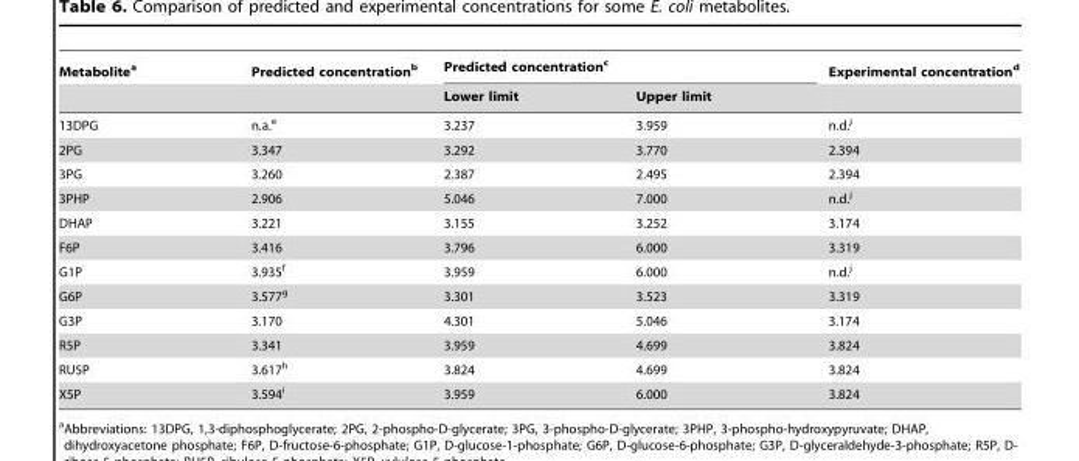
<table><thead><tr><td rowspan="2">Metabolite<sup>a</sup></td><td rowspan="2">Predicted concentration<sup>b</sup></td><td colspan="2">Predicted concentration<sup>c</sup></td><td rowspan="2">Experimental concentration<sup>d</sup></td></tr><tr><td>Lower limit</td><td>Upper limit</td></tr></thead><tbody><tr><td>13DPG</td><td>n.a.<sup>e</sup></td><td>3.237</td><td>3.959</td><td>n.d.<sup>j</sup></td></tr><tr><td>2PG</td><td>3.347</td><td>3.292</td><td>3.770</td><td>2.394</td></tr><tr><td>3PG</td><td>3.260</td><td>2.387</td><td>2.495</td><td>2.394</td></tr><tr><td>3PHP</td><td>2.906</td><td>5.046</td><td>7.000</td><td>n.d.<sup>j</sup></td></tr><tr><td>DHAP</td><td>3.221</td><td>3.155</td><td>3.252</td><td>3.174</td></tr><tr><td>F6P</td><td>3.416</td><td>3.796</td><td>6.000</td><td>3.319</td></tr><tr><td>G1P</td><td>3.935<sup>f</sup></td><td>3.959</td><td>6.000</td><td>n.d.<sup>j</sup></td></tr><tr><td>G6P</td><td>3.577<sup>g</sup></td><td>3.301</td><td>3.523</td><td>3.319</td></tr><tr><td>G3P</td><td>3.170</td><td>4.301</td><td>5.046</td><td>3.174</td></tr><tr><td>R5P</td><td>3.341</td><td>3.959</td><td>4.699</td><td>3.824</td></tr><tr><td>RU5P</td><td>3.617<sup>h</sup></td><td>3.824</td><td>4.699</td><td>3.824</td></tr><tr><td>X5P</td><td>3.594<sup>i</sup></td><td>3.959</td><td>6.000</td><td>3.824</td></tr></tbody></table>